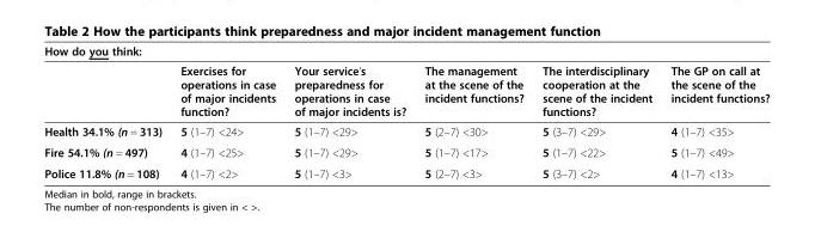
<table><thead><tr><td colspan="6">How do you think:</td></tr><tr><td></td><td>Exercises for operations in case of major incidents function?</td><td>Your service’s preparedness for operations in case of major incidents is?</td><td>The management at the scene of the incident functions?</td><td>The interdisciplinary cooperation at the scene of the incident functions?</td><td>The GP on call at the scene of the incident functions?</td></tr></thead><tbody><tr><td>Health 34.1% (n = 313)</td><td>5 (1–7) &lt;24&gt;</td><td>5 (1–7) &lt;29&gt;</td><td>5 (2–7) &lt;30&gt;</td><td>5 (3–7) &lt;29&gt;</td><td>4 (1–7) &lt;35&gt;</td></tr><tr><td>Fire 54.1% (n = 497)</td><td>4 (1–7) &lt;25&gt;</td><td>5 (1–7) &lt;29&gt;</td><td>5 (1–7) &lt;17&gt;</td><td>5 (1–7) &lt;22&gt;</td><td>5 (1–7) &lt;49&gt;</td></tr><tr><td>Police 11.8% (n = 108)</td><td>4 (1–7) &lt;2&gt;</td><td>5 (1–7) &lt;3&gt;</td><td>5 (2–7) &lt;3&gt;</td><td>5 (3–7) &lt;2&gt;</td><td>4 (1–7) &lt;13&gt;</td></tr></tbody></table>